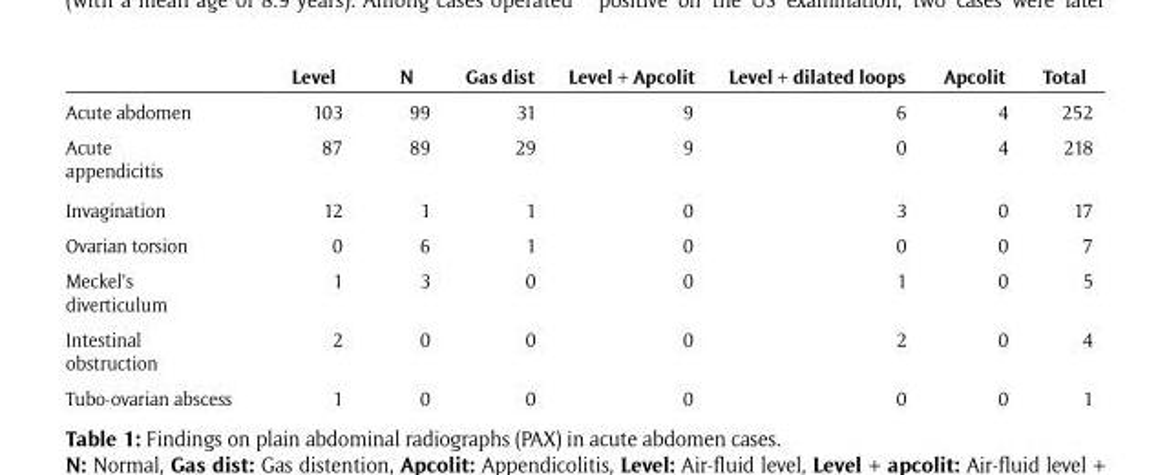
<table><thead><tr><td></td><td>Level</td><td>N</td><td>Gas dist</td><td>Level + Apcolit</td><td>Level + dilated loops</td><td>Apcolit</td><td>Total</td></tr></thead><tbody><tr><td>Acute abdomen</td><td>103</td><td>99</td><td>31</td><td>9</td><td>6</td><td>4</td><td>252</td></tr><tr><td>Acute appendicitis</td><td>87</td><td>89</td><td>29</td><td>9</td><td>0</td><td>4</td><td>218</td></tr><tr><td>Invagination</td><td>12</td><td>1</td><td>1</td><td>0</td><td>3</td><td>0</td><td>17</td></tr><tr><td>Ovarian torsion</td><td>0</td><td>6</td><td>1</td><td>0</td><td>0</td><td>0</td><td>7</td></tr><tr><td>Meckel’s diverticulum</td><td>1</td><td>3</td><td>0</td><td>0</td><td>1</td><td>0</td><td>5</td></tr><tr><td>Intestinal obstruction</td><td>2</td><td>0</td><td>0</td><td>0</td><td>2</td><td>0</td><td>4</td></tr><tr><td>Tubo-ovarian abscess</td><td>1</td><td>0</td><td>0</td><td>0</td><td>0</td><td>0</td><td>1</td></tr></tbody></table>